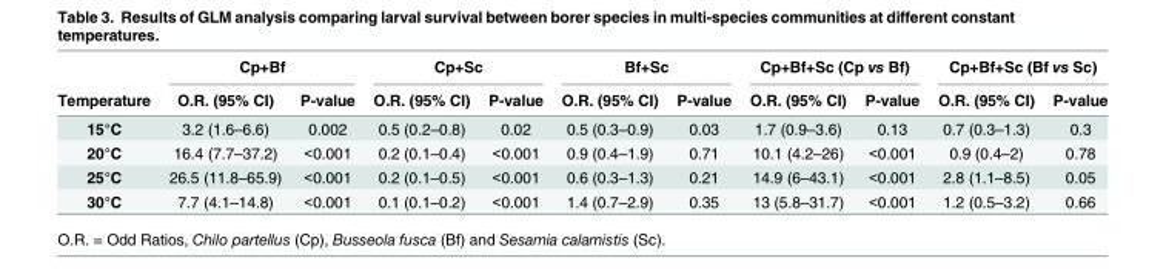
<table><thead><tr><td rowspan="2">Temperature</td><td colspan="2">Cp+Bf</td><td colspan="2">Cp+Sc</td><td colspan="2">Bf+Sc</td><td colspan="2">Cp+Bf+Sc (Cp vs Bf)</td><td colspan="2">Cp+Bf+Sc (Bf vs Sc)</td></tr><tr><td>O.R. (95% CI)</td><td>P-value</td><td>O.R. (95% CI)</td><td>P-value</td><td>O.R. (95% CI)</td><td>P-value</td><td>O.R. (95% CI)</td><td>P-value</td><td>O.R. (95% CI)</td><td>P-value</td></tr></thead><tbody><tr><td>15°C</td><td>3.2 (1.6–6.6)</td><td>0.002</td><td>0.5 (0.2–0.8)</td><td>0.02</td><td>0.5 (0.3–0.9)</td><td>0.03</td><td>1.7 (0.9–3.6)</td><td>0.13</td><td>0.7 (0.3–1.3)</td><td>0.3</td></tr><tr><td>20°C</td><td>16.4 (7.7–37.2)</td><td>&lt;0.001</td><td>0.2 (0.1–0.4)</td><td>&lt;0.001</td><td>0.9 (0.4–1.9)</td><td>0.71</td><td>10.1 (4.2–26)</td><td>&lt;0.001</td><td>0.9 (0.4–2)</td><td>0.78</td></tr><tr><td>25°C</td><td>26.5 (11.8–65.9)</td><td>&lt;0.001</td><td>0.2 (0.1–0.5)</td><td>&lt;0.001</td><td>0.6 (0.3–1.3)</td><td>0.21</td><td>14.9 (6–43.1)</td><td>&lt;0.001</td><td>2.8 (1.1–8.5)</td><td>0.05</td></tr><tr><td>30°C</td><td>7.7 (4.1–14.8)</td><td>&lt;0.001</td><td>0.1 (0.1–0.2)</td><td>&lt;0.001</td><td>1.4 (0.7–2.9)</td><td>0.35</td><td>13 (5.8–31.7)</td><td>&lt;0.001</td><td>1.2 (0.5–3.2)</td><td>0.66</td></tr></tbody></table>